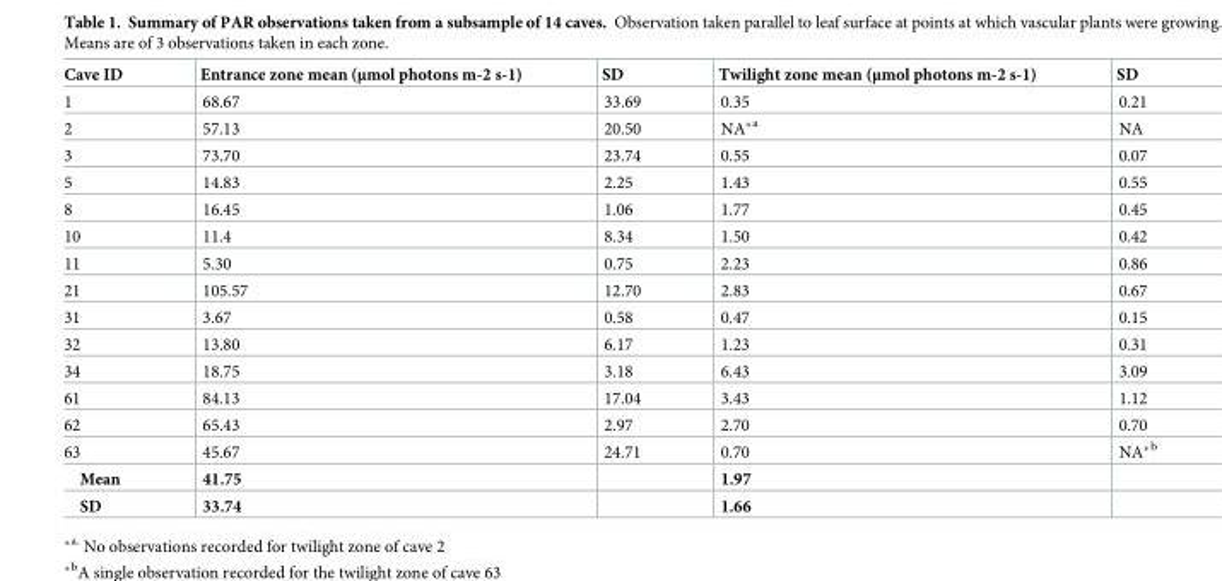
<table><thead><tr><td>Cave ID</td><td>Entrance zone mean (μmol photons m-2 s-1)</td><td>SD</td><td>Twilight zone mean (μmol photons m-2 s-1)</td><td>SD</td></tr></thead><tbody><tr><td>1</td><td>68.67</td><td>33.69</td><td>0.35</td><td>0.21</td></tr><tr><td>2</td><td>57.13</td><td>20.50</td><td>NA*<sup>a</sup></td><td>NA</td></tr><tr><td>3</td><td>73.70</td><td>23.74</td><td>0.55</td><td>0.07</td></tr><tr><td>5</td><td>14.83</td><td>2.25</td><td>1.43</td><td>0.55</td></tr><tr><td>8</td><td>16.45</td><td>1.06</td><td>1.77</td><td>0.45</td></tr><tr><td>10</td><td>11.4</td><td>8.34</td><td>1.50</td><td>0.42</td></tr><tr><td>11</td><td>5.30</td><td>0.75</td><td>2.23</td><td>0.86</td></tr><tr><td>21</td><td>105.57</td><td>12.70</td><td>2.83</td><td>0.67</td></tr><tr><td>31</td><td>3.67</td><td>0.58</td><td>0.47</td><td>0.15</td></tr><tr><td>32</td><td>13.80</td><td>6.17</td><td>1.23</td><td>0.31</td></tr><tr><td>34</td><td>18.75</td><td>3.18</td><td>6.43</td><td>3.09</td></tr><tr><td>61</td><td>84.13</td><td>17.04</td><td>3.43</td><td>1.12</td></tr><tr><td>62</td><td>65.43</td><td>2.97</td><td>2.70</td><td>0.70</td></tr><tr><td>63</td><td>45.67</td><td>24.71</td><td>0.70</td><td>NA*<sup>b</sup></td></tr><tr><td>Mean</td><td>41.75</td><td></td><td>1.97</td><td></td></tr><tr><td>SD</td><td>33.74</td><td></td><td>1.66</td><td></td></tr></tbody></table>